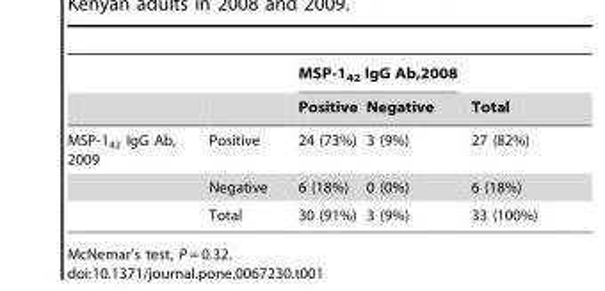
<table><thead><tr><td rowspan="2"></td><td rowspan="2"></td><td colspan="2">MSP-1<sub>42</sub> IgG Ab,2008</td><td rowspan="2">Total</td></tr><tr><td>Positive</td><td>Negative</td></tr></thead><tbody><tr><td rowspan="3">MSP-1<sub>42</sub> IgG Ab, 2009</td><td>Positive</td><td>24 (73%)</td><td>3 (9%)</td><td>27 (82%)</td></tr><tr><td>Negative</td><td>6 (18%)</td><td>0 (0%)</td><td>6 (18%)</td></tr><tr><td>Total</td><td>30 (91%)</td><td>3 (9%)</td><td>33 (100%)</td></tr></tbody></table>